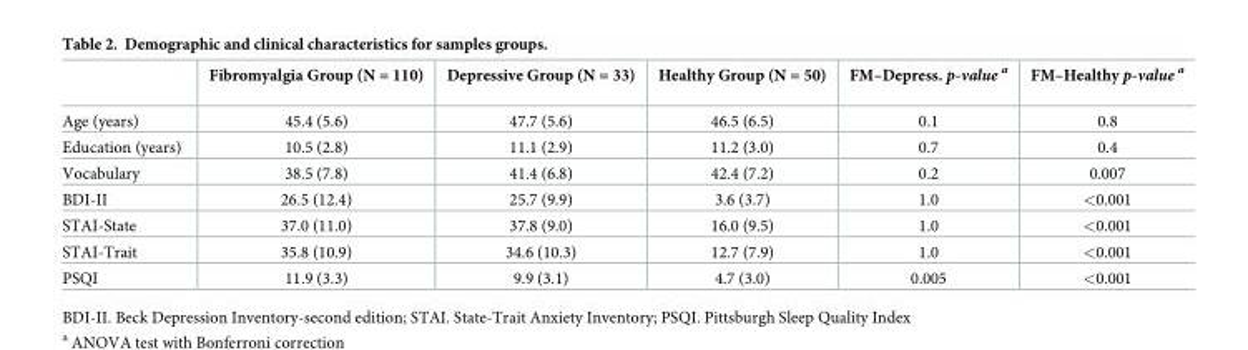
<table><thead><tr><td></td><td>Fibromyalgia Group (N = 110)</td><td>Depressive Group (N = 33)</td><td>Healthy Group (N = 50)</td><td>FM–Depress. p-value <sup>a</sup></td><td>FM–Healthy p-value <sup>a</sup></td></tr></thead><tbody><tr><td>Age (years)</td><td>45.4 (5.6)</td><td>47.7 (5.6)</td><td>46.5 (6.5)</td><td>0.1</td><td>0.8</td></tr><tr><td>Education (years)</td><td>10.5 (2.8)</td><td>11.1 (2.9)</td><td>11.2 (3.0)</td><td>0.7</td><td>0.4</td></tr><tr><td>Vocabulary</td><td>38.5 (7.8)</td><td>41.4 (6.8)</td><td>42.4 (7.2)</td><td>0.2</td><td>0.007</td></tr><tr><td>BDI-II</td><td>26.5 (12.4)</td><td>25.7 (9.9)</td><td>3.6 (3.7)</td><td>1.0</td><td>&lt;0.001</td></tr><tr><td>STAI-State</td><td>37.0 (11.0)</td><td>37.8 (9.0)</td><td>16.0 (9.5)</td><td>1.0</td><td>&lt;0.001</td></tr><tr><td>STAI-Trait</td><td>35.8 (10.9)</td><td>34.6 (10.3)</td><td>12.7 (7.9)</td><td>1.0</td><td>&lt;0.001</td></tr><tr><td>PSQI</td><td>11.9 (3.3)</td><td>9.9 (3.1)</td><td>4.7 (3.0)</td><td>0.005</td><td>&lt;0.001</td></tr></tbody></table>